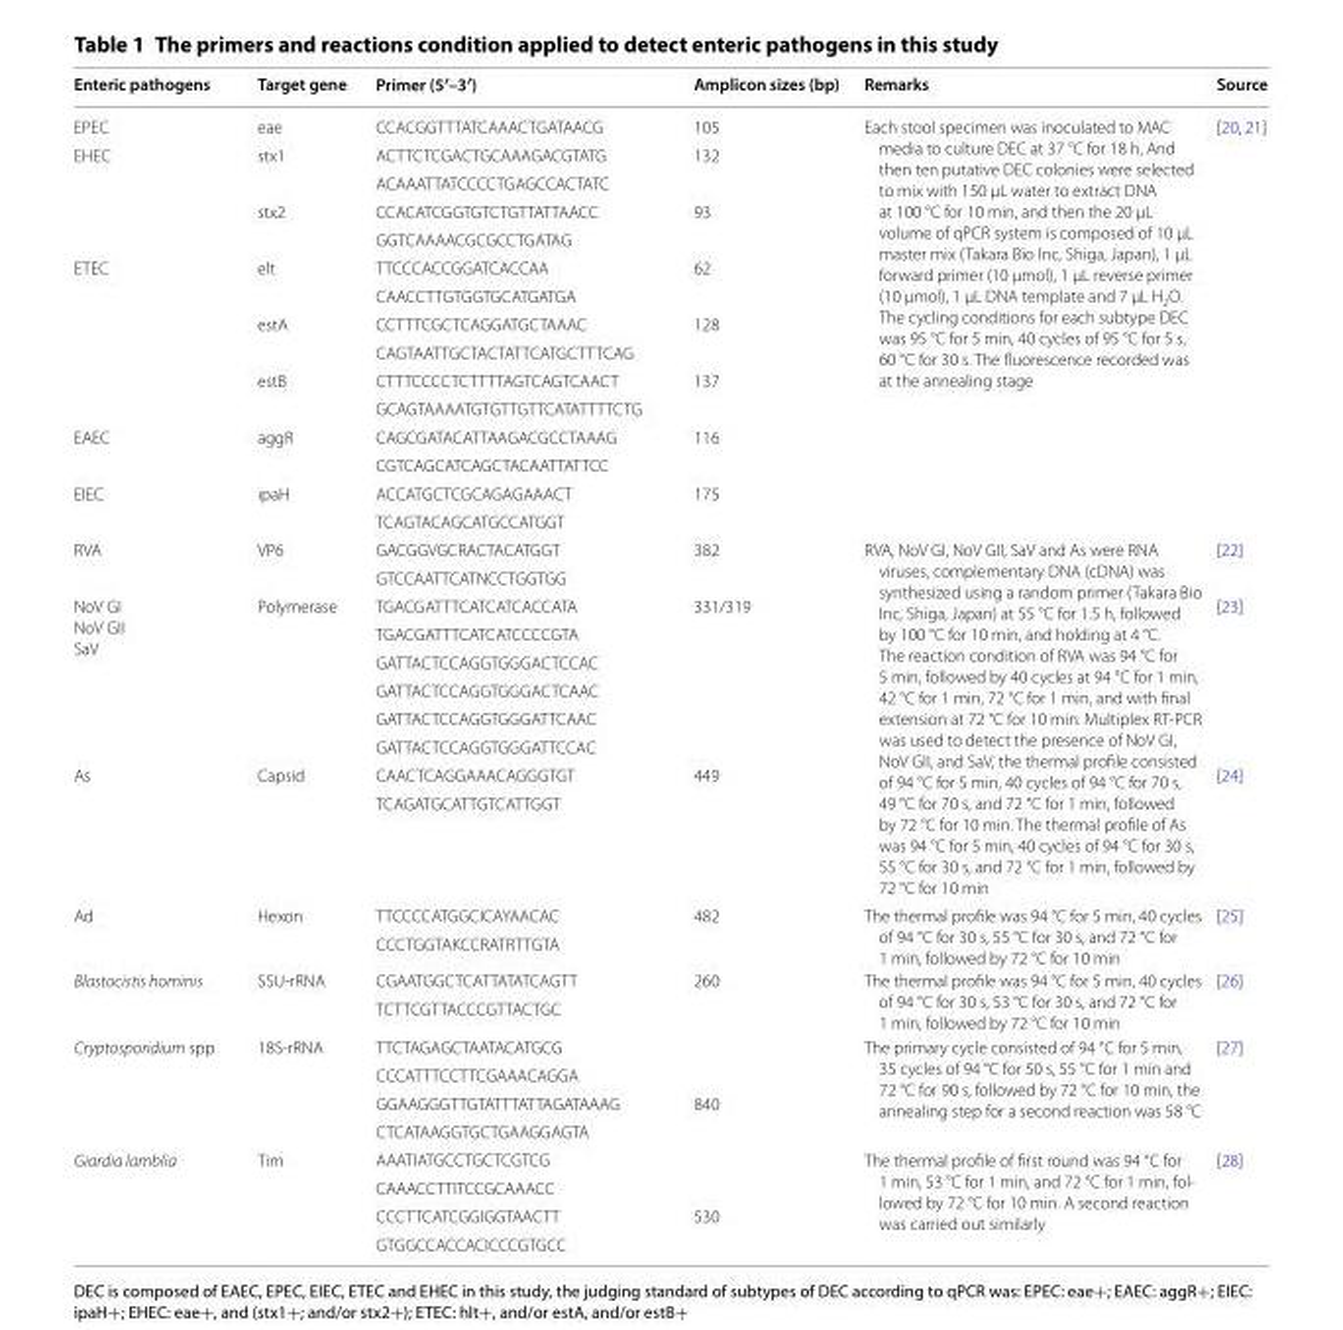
<table><thead><tr><td>Enteric pathogens</td><td>Target gene</td><td>Primer (5′–3′)</td><td>Amplicon sizes (bp)</td><td>Remarks</td><td>Source</td></tr></thead><tbody><tr><td>EPEC</td><td>eae</td><td>CCACGGTTTATCAAACTGATAACG</td><td>105</td><td rowspan="15">Each stool specimen was inoculated to MAC media to culture DEC at 37 °C for 18 h, And then ten putative DEC colonies were selected to mix with 150 μL water to extract DNA at 100 °C for 10 min, and then the 20 μL volume of qPCR system is composed of 10 μL master mix (Takara Bio Inc, Shiga, Japan), 1 μL forward primer (10 μmol), 1 μL reverse primer (10 μmol), 1 μL DNA template and 7 μL H<sub>2</sub>O. The cycling conditions for each subtype DEC was 95 °C for 5 min, 40 cycles of 95 °C for 5 s, 60 °C for 30 s. The fluorescence recorded was at the annealing stage</td><td rowspan="15">[20, 21]</td></tr><tr><td rowspan="4">EHEC</td><td rowspan="2">stx1</td><td>ACTTCTCGACTGCAAAGACGTATG</td><td rowspan="2">132</td></tr><tr><td>ACAAATTATCCCCTGAGCCACTATC</td></tr><tr><td rowspan="2">stx2</td><td>CCACATCGGTGTCTGTTATTAACC</td><td rowspan="2">93</td></tr><tr><td>GGTCAAAACGCGCCTGATAG</td></tr><tr><td rowspan="6">ETEC</td><td rowspan="2">elt</td><td>TTCCCACCGGATCACCAA</td><td rowspan="2">62</td></tr><tr><td>CAACCTTGTGGTGCATGATGA</td></tr><tr><td rowspan="2">estA</td><td>CCTTTCGCTCAGGATGCTAAAC</td><td rowspan="2">128</td></tr><tr><td>CAGTAATTGCTACTATTCATGCTTTCAG</td></tr><tr><td rowspan="2">estB</td><td>CTTTCCCCTCTTTTAGTCAGTCAACT</td><td rowspan="2">137</td></tr><tr><td>GCAGTAAAATGTGTTGTTCATATTTTCTG</td></tr><tr><td rowspan="2">EAEC</td><td rowspan="2">aggR</td><td>CAGCGATACATTAAGACGCCTAAAG</td><td rowspan="2">116</td></tr><tr><td>CGTCAGCATCAGCTACAATTATTCC</td></tr><tr><td rowspan="2">EIEC</td><td rowspan="2">ipaH</td><td>ACCATGCTCGCAGAGAAACT</td><td rowspan="2">175</td></tr><tr><td>TCAGTACAGCATGCCATGGT</td></tr><tr><td rowspan="2">RVA</td><td rowspan="2">VP6</td><td>GACGGVGCRACTACATGGT</td><td rowspan="2">382</td><td rowspan="10">RVA, NoV GI, NoV GII, SaV and As were RNA viruses, complementary DNA (cDNA) was synthesized using a random primer (Takara Bio Inc, Shiga, Japan) at 55 °C for 1.5 h, followed by 100 °C for 10 min, and holding at 4 °C. The reaction condition of RVA was 94 °C for 5 min, followed by 40 cycles at 94 °C for 1 min, 42 °C for 1 min, 72 °C for 1 min, and with final extension at 72 °C for 10 min. Multiplex RT‑PCR was used to detect the presence of NoV GI, NoV GII, and SaV, the thermal profile consisted of 94 °C for 5 min, 40 cycles of 94 °C for 70 s, 49 °C for 70 s, and 72 °C for 1 min, followed by 72 °C for 10 min. The thermal profile of As was 94 °C for 5 min, 40 cycles of 94 °C for 30 s, 55 °C for 30 s, and 72 °C for 1 min, followed by 72 °C for 10 min</td><td rowspan="2">[22]</td></tr><tr><td>GTCCAATTCATNCCTGGTGG</td></tr><tr><td rowspan="6">NoV GI NoV GII SaV</td><td rowspan="6">Polymerase</td><td>TGACGATTTCATCATCACCATA</td><td rowspan="6">331/319</td><td rowspan="6">[23]</td></tr><tr><td>TGACGATTTCATCATCCCCGTA</td></tr><tr><td>GATTACTCCAGGTGGGACTCCAC</td></tr><tr><td>GATTACTCCAGGTGGGACTCAAC</td></tr><tr><td>GATTACTCCAGGTGGGATTCAAC</td></tr><tr><td>GATTACTCCAGGTGGGATTCCAC</td></tr><tr><td rowspan="2">As</td><td rowspan="2">Capsid</td><td>CAACTCAGGAAACAGGGTGT</td><td rowspan="2">449</td><td rowspan="2">[24]</td></tr><tr><td>TCAGATGCATTGTCATTGGT</td></tr><tr><td rowspan="2">Ad</td><td rowspan="2">Hexon</td><td>TTCCCCATGGCICAYAACAC</td><td rowspan="2">482</td><td rowspan="2">The thermal profile was 94 °C for 5 min, 40 cycles of 94 °C for 30 s, 55 °C for 30 s, and 72 °C for 1 min, followed by 72 °C for 10 min</td><td rowspan="2">[25]</td></tr><tr><td>CCCTGGTAKCCRATRTTGTA</td></tr><tr><td rowspan="2">Blastocistis hominis</td><td rowspan="2">SSU‑rRNA</td><td>CGAATGGCTCATTATATCAGTT</td><td rowspan="2">260</td><td rowspan="2">The thermal profile was 94 °C for 5 min, 40 cycles of 94 °C for 30 s, 53 °C for 30 s, and 72 °C for 1 min, followed by 72 °C for 10 min</td><td rowspan="2">[26]</td></tr><tr><td>TCTTCGTTACCCGTTACTGC</td></tr><tr><td rowspan="4">Cryptosporidium spp.</td><td rowspan="4">18S‑rRNA</td><td>TTCTAGAGCTAATACATGCG</td><td></td><td rowspan="4">The primary cycle consisted of 94 °C for 5 min, 35 cycles of 94 °C for 50 s, 55 °C for 1 min and 72 °C for 90 s, followed by 72 °C for 10 min, the annealing step for a second reaction was 58 °C</td><td rowspan="4">[27]</td></tr><tr><td>CCCATTTCCTTCGAAACAGGA</td><td></td></tr><tr><td>GGAAGGGTTGTATTTATTAGATAAAG</td><td rowspan="2">840</td></tr><tr><td>CTCATAAGGTGCTGAAGGAGTA</td></tr><tr><td rowspan="4">Giardia lamblia</td><td rowspan="4">Tim</td><td>AAATIATGCCTGCTCGTCG</td><td></td><td rowspan="4">The thermal profile of first round was 94 °C for 1 min, 53 °C for 1 min, and 72 °C for 1 min, fol‑ lowed by 72 °C for 10 min. A second reaction was carried out similarly</td><td rowspan="4">[28]</td></tr><tr><td>CAAACCTTITCCGCAAACC</td><td></td></tr><tr><td>CCCTTCATCGGIGGTAACTT</td><td rowspan="2">530</td></tr><tr><td>GTGGCCACCACICCCGTGCC</td></tr></tbody></table>